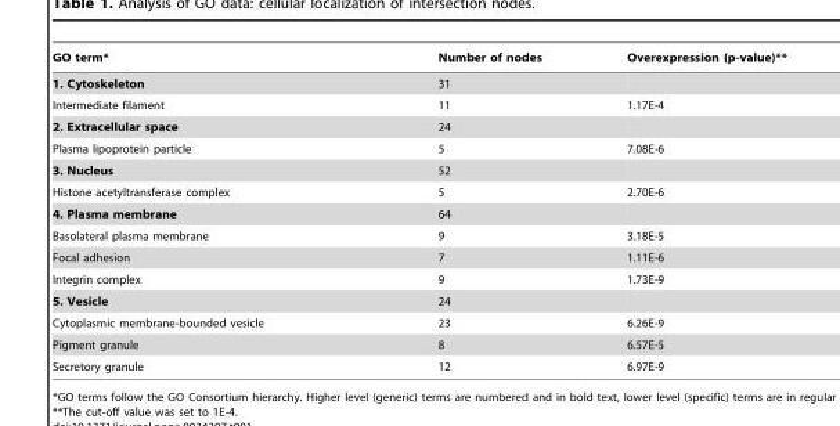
<table><thead><tr><td>GO term*</td><td>Number of nodes</td><td>Overexpression (p-value)**</td></tr></thead><tbody><tr><td>1. Cytoskeleton</td><td>31</td><td></td></tr><tr><td>Intermediate filament</td><td>11</td><td>1.17E-4</td></tr><tr><td>2. Extracellular space</td><td>24</td><td></td></tr><tr><td>Plasma lipoprotein particle</td><td>5</td><td>7.08E-6</td></tr><tr><td>3. Nucleus</td><td>52</td><td></td></tr><tr><td>Histone acetyltransferase complex</td><td>5</td><td>2.70E-6</td></tr><tr><td>4. Plasma membrane</td><td>64</td><td></td></tr><tr><td>Basolateral plasma membrane</td><td>9</td><td>3.18E-5</td></tr><tr><td>Focal adhesion</td><td>7</td><td>1.11E-6</td></tr><tr><td>Integrin complex</td><td>9</td><td>1.73E-9</td></tr><tr><td>5. Vesicle</td><td>24</td><td></td></tr><tr><td>Cytoplasmic membrane-bounded vesicle</td><td>23</td><td>6.26E-9</td></tr><tr><td>Pigment granule</td><td>8</td><td>6.57E-5</td></tr><tr><td>Secretory granule</td><td>12</td><td>6.97E-9</td></tr></tbody></table>